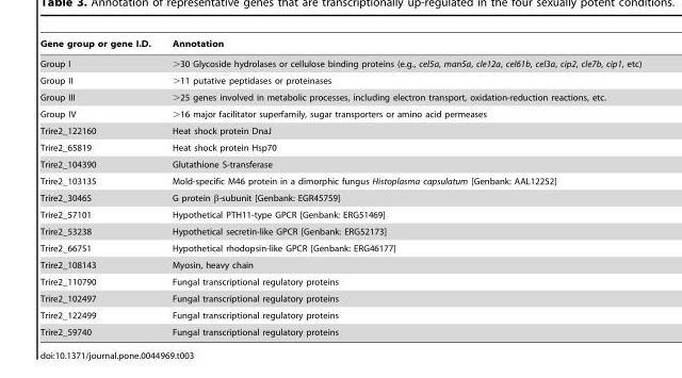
<table><thead><tr><td>Gene group or gene I.D.</td><td>Annotation</td></tr></thead><tbody><tr><td>Group I</td><td>&gt;30 Glycoside hydrolases or cellulose binding proteins (e.g., cel5a, man5a, cle12a, cel61b, cel3a, cip2, cle7b, cip1, etc)</td></tr><tr><td>Group II</td><td>&gt;11 putative peptidases or proteinases</td></tr><tr><td>Group III</td><td>&gt;25 genes involved in metabolic processes, including electron transport, oxidation-reduction reactions, etc.</td></tr><tr><td>Group IV</td><td>&gt;16 major facilitator superfamily, sugar transporters or amino acid permeases</td></tr><tr><td>Trire2_122160</td><td>Heat shock protein DnaJ</td></tr><tr><td>Trire2_65819</td><td>Heat shock protein Hsp70</td></tr><tr><td>Trire2_104390</td><td>Glutathione S-transferase</td></tr><tr><td>Trire2_103135</td><td>Mold-specific M46 protein in a dimorphic fungus Histoplasma capsulatum [Genbank: AAL12252]</td></tr><tr><td>Trire2_30465</td><td>G protein β-subunit [Genbank: EGR45759]</td></tr><tr><td>Trire2_57101</td><td>Hypothetical PTH11-type GPCR [Genbank: ERG51469]</td></tr><tr><td>Trire2_53238</td><td>Hypothetical secretin-like GPCR [Genbank: ERG52173]</td></tr><tr><td>Trire2_66751</td><td>Hypothetical rhodopsin-like GPCR [Genbank: ERG46177]</td></tr><tr><td>Trire2_108143</td><td>Myosin, heavy chain</td></tr><tr><td>Trire2_110790</td><td>Fungal transcriptional regulatory proteins</td></tr><tr><td>Trire2_102497</td><td>Fungal transcriptional regulatory proteins</td></tr><tr><td>Trire2_122499</td><td>Fungal transcriptional regulatory proteins</td></tr><tr><td>Trire2_59740</td><td>Fungal transcriptional regulatory proteins</td></tr></tbody></table>